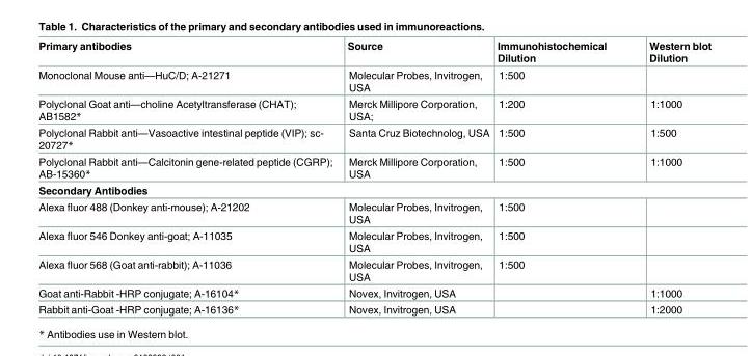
<table><thead><tr><td>Primary antibodies</td><td>Source</td><td>Immunohistochemical Dilution</td><td>Western blot Dilution</td></tr></thead><tbody><tr><td>Monoclonal Mouse anti—HuC/D; A-21271</td><td>Molecular Probes, Invitrogen, USA</td><td>1:500</td><td></td></tr><tr><td>Polyclonal Goat anti—choline Acetyltransferase (CHAT); AB1582*</td><td>Merck Millipore Corporation, USA;</td><td>1:200</td><td>1:1000</td></tr><tr><td>Polyclonal Rabbit anti—Vasoactive intestinal peptide (VIP); sc- 20727*</td><td>Santa Cruz Biotechnolog, USA</td><td>1:500</td><td>1:500</td></tr><tr><td>Polyclonal Rabbit anti—Calcitonin gene-related peptide (CGRP); AB-15360*</td><td>Merck Millipore Corporation, USA</td><td>1:500</td><td>1:1000</td></tr><tr><td colspan="4">Secondary Antibodies</td></tr><tr><td>Alexa fluor 488 (Donkey anti-mouse); A-21202</td><td>Molecular Probes, Invitrogen, USA</td><td>1:500</td><td></td></tr><tr><td>Alexa fluor 546 Donkey anti-goat; A-11035</td><td>Molecular Probes, Invitrogen, USA</td><td>1:500</td><td></td></tr><tr><td>Alexa fluor 568 (Goat anti-rabbit); A-11036</td><td>Molecular Probes, Invitrogen, USA</td><td>1:500</td><td></td></tr><tr><td>Goat anti-Rabbit -HRP conjugate; A-16104*</td><td>Novex, Invitrogen, USA</td><td></td><td>1:1000</td></tr><tr><td>Rabbit anti-Goat -HRP conjugate; A-16136*</td><td>Novex, Invitrogen, USA</td><td></td><td>1:2000</td></tr></tbody></table>